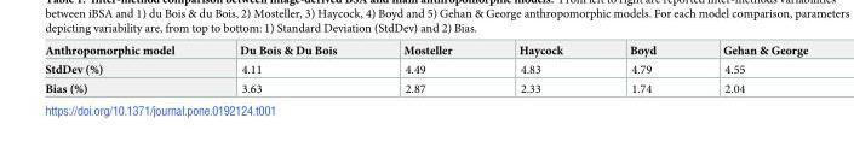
<table><thead><tr><td>Anthropomorphic model</td><td>Du Bois &amp; Du Bois</td><td>Mosteller</td><td>Haycock</td><td>Boyd</td><td>Gehan &amp; George</td></tr></thead><tbody><tr><td>StdDev (%)</td><td>4.11</td><td>4.49</td><td>4.83</td><td>4.79</td><td>4.55</td></tr><tr><td>Bias (%)</td><td>3.63</td><td>2.87</td><td>2.33</td><td>1.74</td><td>2.04</td></tr></tbody></table>